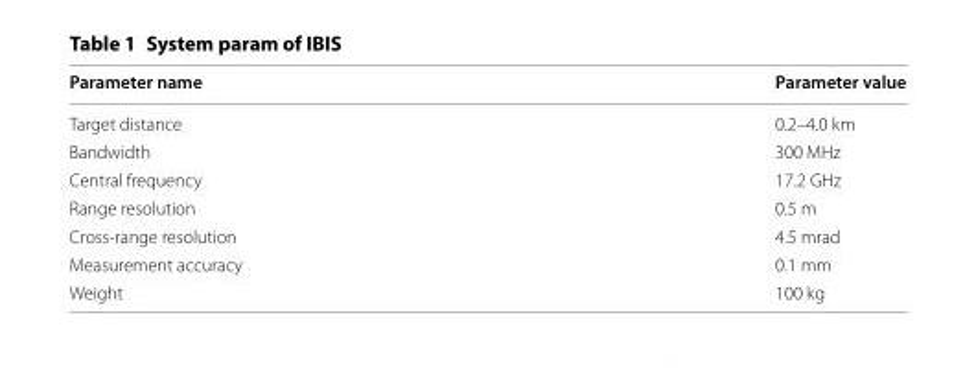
<table><thead><tr><td>Parameter name</td><td>Parameter value</td></tr></thead><tbody><tr><td>Target distance</td><td>0.2–4.0 km</td></tr><tr><td>Bandwidth</td><td>300 MHz</td></tr><tr><td>Central frequency</td><td>17.2 GHz</td></tr><tr><td>Range resolution</td><td>0.5 m</td></tr><tr><td>Cross-range resolution</td><td>4.5 mrad</td></tr><tr><td>Measurement accuracy</td><td>0.1 mm</td></tr><tr><td>Weight</td><td>100 kg</td></tr></tbody></table>